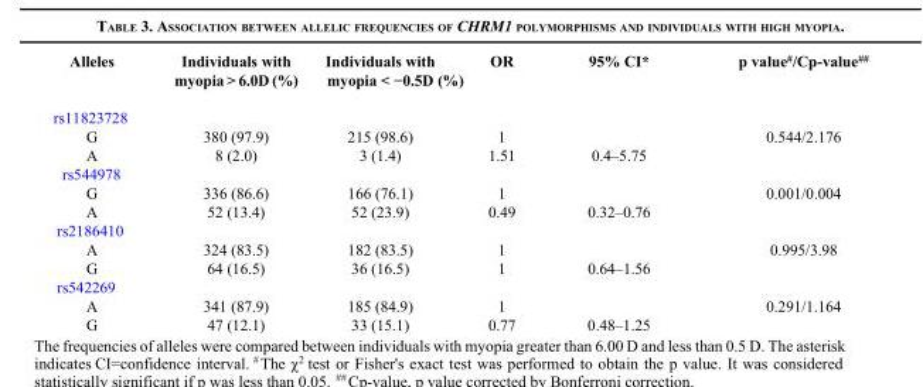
<table><tbody><tr><td>Alleles</td><td>Individuals with myopia &gt; 6.0D (%)</td><td>Individuals with myopia &lt; −0.5D (%)</td><td>OR</td><td>95% CI*</td><td>p value<sup>#</sup>/Cp-value<sup>##</sup></td></tr><tr><td colspan="6">rs11823728</td></tr><tr><td>G</td><td>380 (97.9)</td><td>215 (98.6)</td><td>1</td><td></td><td>0.544/2.176</td></tr><tr><td>A</td><td>8 (2.0)</td><td>3 (1.4)</td><td>1.51</td><td>0.4–5.75</td><td></td></tr><tr><td colspan="6">rs544978</td></tr><tr><td>G</td><td>336 (86.6)</td><td>166 (76.1)</td><td>1</td><td></td><td>0.001/0.004</td></tr><tr><td>A</td><td>52 (13.4)</td><td>52 (23.9)</td><td>0.49</td><td>0.32–0.76</td><td></td></tr><tr><td colspan="6">rs2186410</td></tr><tr><td>A</td><td>324 (83.5)</td><td>182 (83.5)</td><td>1</td><td></td><td>0.995/3.98</td></tr><tr><td>G</td><td>64 (16.5)</td><td>36 (16.5)</td><td>1</td><td>0.64–1.56</td><td></td></tr><tr><td colspan="6">rs542269</td></tr><tr><td>A</td><td>341 (87.9)</td><td>185 (84.9)</td><td>1</td><td></td><td>0.291/1.164</td></tr><tr><td>G</td><td>47 (12.1)</td><td>33 (15.1)</td><td>0.77</td><td>0.48–1.25</td><td></td></tr></tbody></table>